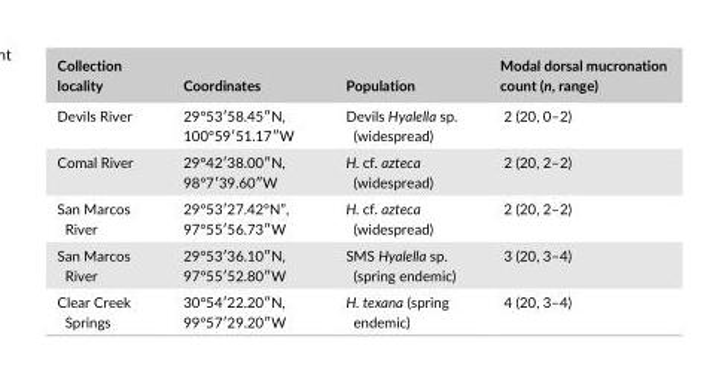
<table><thead><tr><td>Collection locality</td><td>Coordinates</td><td>Population</td><td>Modal dorsal mucronation count (n, range)</td></tr></thead><tbody><tr><td>Devils River</td><td>29°53′58.45″N, 100°59′51.17″W</td><td>Devils Hyalella sp. (widespread)</td><td>2 (20, 0–2)</td></tr><tr><td>Comal River</td><td>29°42′38.00″N, 98°7′39.60″W</td><td>H. cf. azteca (widespread)</td><td>2 (20, 2–2)</td></tr><tr><td>San Marcos River</td><td>29°53′27.42°N”, 97°55′56.73″W</td><td>H. cf. azteca (widespread)</td><td>2 (20, 2–2)</td></tr><tr><td>San Marcos River</td><td>29°53′36.10″N, 97°55′52.80″W</td><td>SMS Hyalella sp. (spring endemic)</td><td>3 (20, 3–4)</td></tr><tr><td>Clear Creek Springs</td><td>30°54′22.20″N, 99°57′29.20″W</td><td>H. texana (spring endemic)</td><td>4 (20, 3–4)</td></tr></tbody></table>